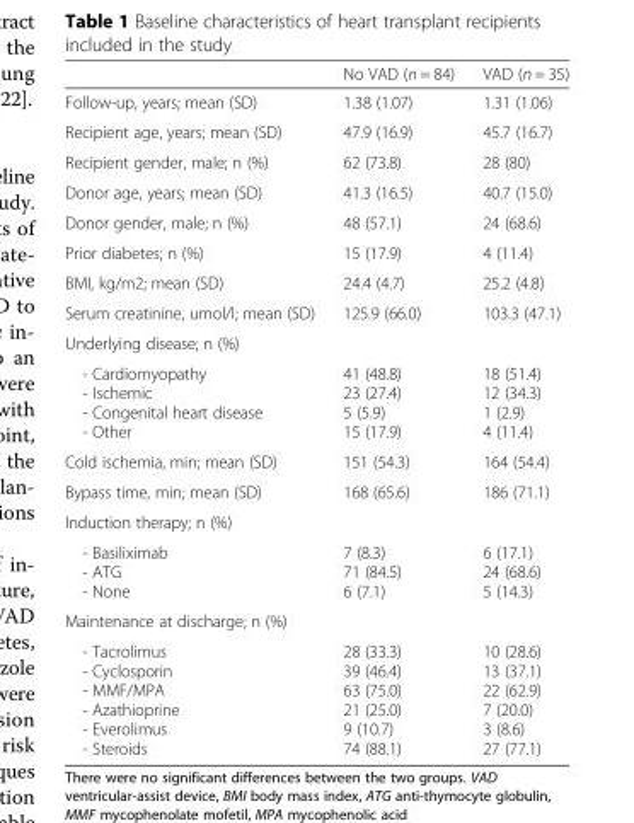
<table><thead><tr><td></td><td>No VAD (n = 84)</td><td>VAD (n = 35)</td></tr></thead><tbody><tr><td>Follow-up, years; mean (SD)</td><td>1.38 (1.07)</td><td>1.31 (1.06)</td></tr><tr><td>Recipient age, years; mean (SD)</td><td>47.9 (16.9)</td><td>45.7 (16.7)</td></tr><tr><td>Recipient gender, male; n (%)</td><td>62 (73.8)</td><td>28 (80)</td></tr><tr><td>Donor age, years; mean (SD)</td><td>41.3 (16.5)</td><td>40.7 (15.0)</td></tr><tr><td>Donor gender, male; n (%)</td><td>48 (57.1)</td><td>24 (68.6)</td></tr><tr><td>Prior diabetes; n (%)</td><td>15 (17.9)</td><td>4 (11.4)</td></tr><tr><td>BMI, kg/m2; mean (SD)</td><td>24.4 (4.7)</td><td>25.2 (4.8)</td></tr><tr><td>Serum creatinine, umol/l; mean (SD)</td><td>125.9 (66.0)</td><td>103.3 (47.1)</td></tr><tr><td colspan="3">Underlying disease; n (%)</td></tr><tr><td>- Cardiomyopathy - Ischemic - Congenital heart disease - Other</td><td>41 (48.8) 23 (27.4) 5 (5.9) 15 (17.9)</td><td>18 (51.4) 12 (34.3) 1 (2.9) 4 (11.4)</td></tr><tr><td>Cold ischemia, min; mean (SD)</td><td>151 (54.3)</td><td>164 (54.4)</td></tr><tr><td>Bypass time, min; mean (SD)</td><td>168 (65.6)</td><td>186 (71.1)</td></tr><tr><td colspan="3">Induction therapy; n (%)</td></tr><tr><td>- Basiliximab - ATG - None</td><td>7 (8.3) 71 (84.5) 6 (7.1)</td><td>6 (17.1) 24 (68.6) 5 (14.3)</td></tr><tr><td colspan="3">Maintenance at discharge; n (%)</td></tr><tr><td>- Tacrolimus - Cyclosporin - MMF/MPA - Azathioprine - Everolimus - Steroids</td><td>28 (33.3) 39 (46.4) 63 (75.0) 21 (25.0) 9 (10.7) 74 (88.1)</td><td>10 (28.6) 13 (37.1) 22 (62.9) 7 (20.0) 3 (8.6) 27 (77.1)</td></tr></tbody></table>